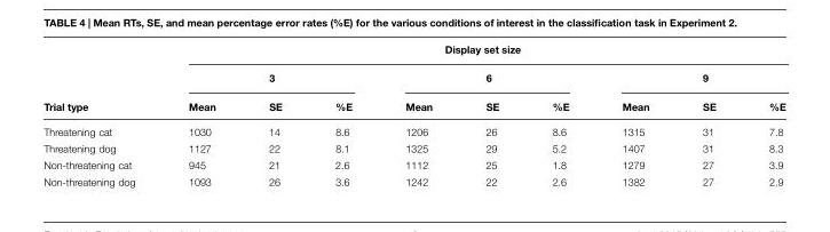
<table><thead><tr><td rowspan="3">Trial type</td><td colspan="9">Display set size</td></tr><tr><td colspan="3">3</td><td colspan="3">6</td><td colspan="3">9</td></tr><tr><td>Mean</td><td>SE</td><td>%E</td><td>Mean</td><td>SE</td><td>%E</td><td>Mean</td><td>SE</td><td>%E</td></tr></thead><tbody><tr><td>Threatening cat</td><td>1030</td><td>14</td><td>8.6</td><td>1206</td><td>26</td><td>8.6</td><td>1315</td><td>31</td><td>7.8</td></tr><tr><td>Threatening dog</td><td>1127</td><td>22</td><td>8.1</td><td>1325</td><td>29</td><td>5.2</td><td>1407</td><td>31</td><td>8.3</td></tr><tr><td>Non-threatening cat</td><td>945</td><td>21</td><td>2.6</td><td>1112</td><td>25</td><td>1.8</td><td>1279</td><td>27</td><td>3.9</td></tr><tr><td>Non-threatening dog</td><td>1093</td><td>26</td><td>3.6</td><td>1242</td><td>22</td><td>2.6</td><td>1382</td><td>27</td><td>2.9</td></tr></tbody></table>